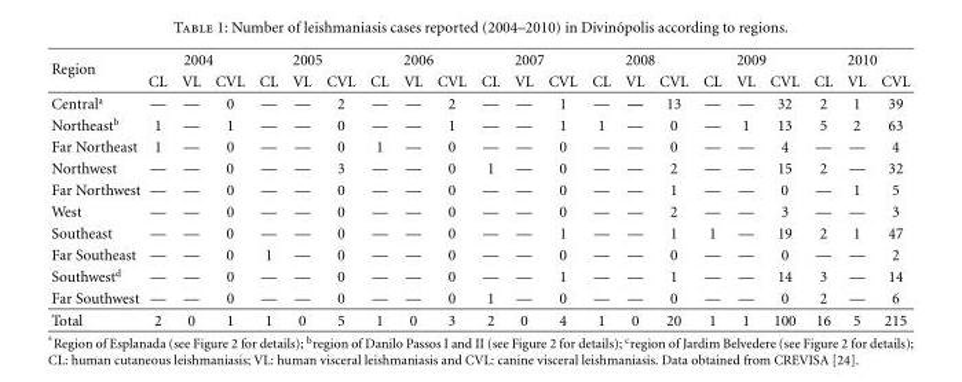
<table><thead><tr><td rowspan="2">Region</td><td colspan="3">2004</td><td colspan="3">2005</td><td colspan="3">2006</td><td colspan="3">2007</td><td colspan="3">2008</td><td colspan="3">2009</td><td colspan="3">2010</td></tr><tr><td>CL</td><td>VL</td><td>CVL</td><td>CL</td><td>VL</td><td>CVL</td><td>CL</td><td>VL</td><td>CVL</td><td>CL</td><td>VL</td><td>CVL</td><td>CL</td><td>VL</td><td>CVL</td><td>CL</td><td>VL</td><td>CVL</td><td>CL</td><td>VL</td><td>CVL</td></tr></thead><tbody><tr><td>Central<sup>a</sup></td><td>—</td><td>—</td><td>0</td><td>—</td><td>—</td><td>2</td><td>—</td><td>—</td><td>2</td><td>—</td><td>—</td><td>1</td><td>—</td><td>—</td><td>13</td><td>—</td><td>—</td><td>32</td><td>2</td><td>1</td><td>39</td></tr><tr><td>Northeast<sup>b</sup></td><td>1</td><td>—</td><td>1</td><td>—</td><td>—</td><td>0</td><td>—</td><td>—</td><td>1</td><td>—</td><td>—</td><td>1</td><td>1</td><td>—</td><td>0</td><td>—</td><td>1</td><td>13</td><td>5</td><td>2</td><td>63</td></tr><tr><td>Far Northeast</td><td>1</td><td>—</td><td>0</td><td>—</td><td>—</td><td>0</td><td>1</td><td>—</td><td>0</td><td>—</td><td>—</td><td>0</td><td>—</td><td>—</td><td>0</td><td>—</td><td>—</td><td>4</td><td>—</td><td>—</td><td>4</td></tr><tr><td>Northwest</td><td>—</td><td>—</td><td>0</td><td>—</td><td>—</td><td>3</td><td>—</td><td>—</td><td>0</td><td>1</td><td>—</td><td>0</td><td>—</td><td>—</td><td>2</td><td>—</td><td>—</td><td>15</td><td>2</td><td>—</td><td>32</td></tr><tr><td>Far Northwest</td><td>—</td><td>—</td><td>0</td><td>—</td><td>—</td><td>0</td><td>—</td><td>—</td><td>0</td><td>—</td><td>—</td><td>0</td><td>—</td><td>—</td><td>1</td><td>—</td><td>—</td><td>0</td><td>—</td><td>1</td><td>5</td></tr><tr><td>West</td><td>—</td><td>—</td><td>0</td><td>—</td><td>—</td><td>0</td><td>—</td><td>—</td><td>0</td><td>—</td><td>—</td><td>0</td><td>—</td><td>—</td><td>2</td><td>—</td><td>—</td><td>3</td><td>—</td><td>—</td><td>3</td></tr><tr><td>Southeast</td><td>—</td><td>—</td><td>0</td><td>—</td><td>—</td><td>0</td><td>—</td><td>—</td><td>0</td><td>—</td><td>—</td><td>1</td><td>—</td><td>—</td><td>1</td><td>1</td><td>—</td><td>19</td><td>2</td><td>1</td><td>47</td></tr><tr><td>Far Southeast</td><td>—</td><td>—</td><td>0</td><td>1</td><td>—</td><td>0</td><td>—</td><td>—</td><td>0</td><td>—</td><td>—</td><td>0</td><td>—</td><td>—</td><td>0</td><td>—</td><td>—</td><td>0</td><td>—</td><td>—</td><td>2</td></tr><tr><td>Southwest<sup>d</sup></td><td>—</td><td>—</td><td>0</td><td>—</td><td>—</td><td>0</td><td>—</td><td>—</td><td>0</td><td>—</td><td>—</td><td>1</td><td>—</td><td>—</td><td>1</td><td>—</td><td>—</td><td>14</td><td>3</td><td>—</td><td>14</td></tr><tr><td>Far Southwest</td><td>—</td><td>—</td><td>0</td><td>—</td><td>—</td><td>0</td><td>—</td><td>—</td><td>0</td><td>1</td><td>—</td><td>0</td><td>—</td><td>—</td><td>0</td><td>—</td><td>—</td><td>0</td><td>2</td><td>—</td><td>6</td></tr><tr><td>Total</td><td>2</td><td>0</td><td>1</td><td>1</td><td>0</td><td>5</td><td>1</td><td>0</td><td>3</td><td>2</td><td>0</td><td>4</td><td>1</td><td>0</td><td>20</td><td>1</td><td>1</td><td>100</td><td>16</td><td>5</td><td>215</td></tr></tbody></table>